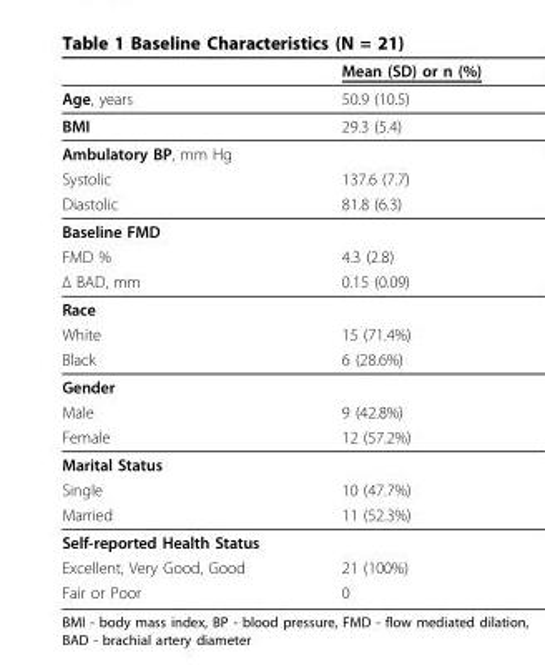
<table><thead><tr><td></td><td>Mean (SD) or n (%)</td></tr></thead><tbody><tr><td>Age, years</td><td>50.9 (10.5)</td></tr><tr><td>BMI</td><td>29.3 (5.4)</td></tr><tr><td colspan="2">Ambulatory BP, mm Hg</td></tr><tr><td>Systolic</td><td>137.6 (7.7)</td></tr><tr><td>Diastolic</td><td>81.8 (6.3)</td></tr><tr><td colspan="2">Baseline FMD</td></tr><tr><td>FMD %</td><td>4.3 (2.8)</td></tr><tr><td>Δ BAD, mm</td><td>0.15 (0.09)</td></tr><tr><td colspan="2">Race</td></tr><tr><td>White</td><td>15 (71.4%)</td></tr><tr><td>Black</td><td>6 (28.6%)</td></tr><tr><td colspan="2">Gender</td></tr><tr><td>Male</td><td>9 (42.8%)</td></tr><tr><td>Female</td><td>12 (57.2%)</td></tr><tr><td colspan="2">Marital Status</td></tr><tr><td>Single</td><td>10 (47.7%)</td></tr><tr><td>Married</td><td>11 (52.3%)</td></tr><tr><td colspan="2">Self-reported Health Status</td></tr><tr><td>Excellent, Very Good, Good</td><td>21 (100%)</td></tr><tr><td>Fair or Poor</td><td>0</td></tr></tbody></table>